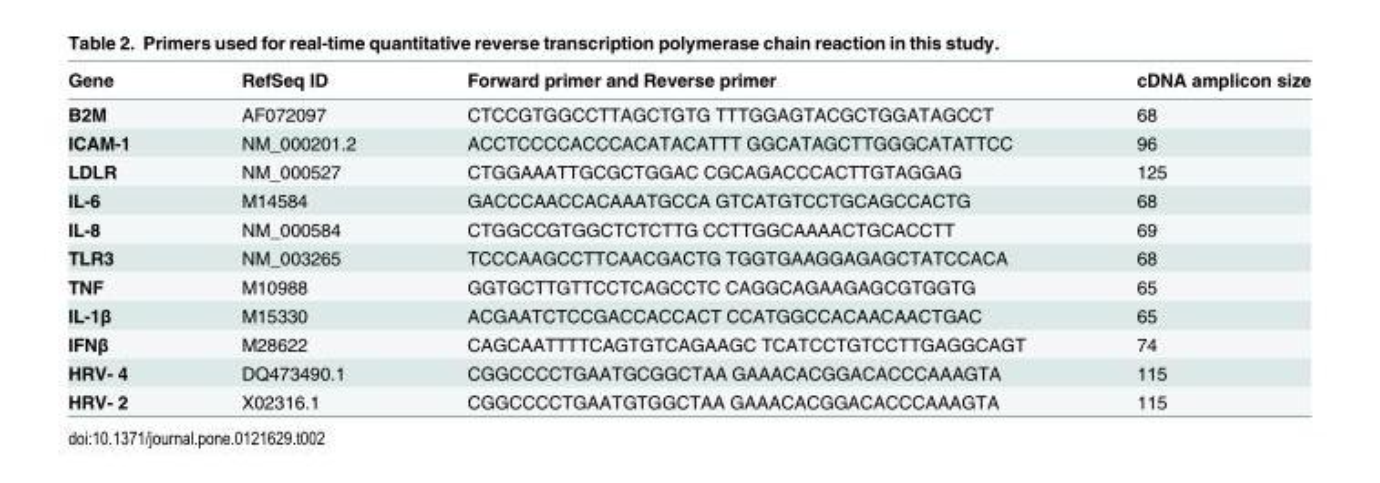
<table><thead><tr><td>Gene</td><td>RefSeq ID</td><td>Forward primer and Reverse primer</td><td>cDNA amplicon size</td></tr></thead><tbody><tr><td>B2M</td><td>AF072097</td><td>CTCCGTGGCCTTAGCTGTG TTTGGAGTACGCTGGATAGCCT</td><td>68</td></tr><tr><td>ICAM-1</td><td>NM_000201.2</td><td>ACCTCCCCACCCACATACATTT GGCATAGCTTGGGCATATTCC</td><td>96</td></tr><tr><td>LDLR</td><td>NM_000527</td><td>CTGGAAATTGCGCTGGAC CGCAGACCCACTTGTAGGAG</td><td>125</td></tr><tr><td>IL-6</td><td>M14584</td><td>GACCCAACCACAAATGCCA GTCATGTCCTGCAGCCACTG</td><td>68</td></tr><tr><td>IL-8</td><td>NM_000584</td><td>CTGGCCGTGGCTCTCTTG CCTTGGCAAAACTGCACCTT</td><td>69</td></tr><tr><td>TLR3</td><td>NM_003265</td><td>TCCCAAGCCTTCAACGACTG TGGTGAAGGAGAGCTATCCACA</td><td>68</td></tr><tr><td>TNF</td><td>M10988</td><td>GGTGCTTGTTCCTCAGCCTC CAGGCAGAAGAGCGTGGTG</td><td>65</td></tr><tr><td>IL-1β</td><td>M15330</td><td>ACGAATCTCCGACCACCACT CCATGGCCACAACAACTGAC</td><td>65</td></tr><tr><td>IFNβ</td><td>M28622</td><td>CAGCAATTTTCAGTGTCAGAAGC TCATCCTGTCCTTGAGGCAGT</td><td>74</td></tr><tr><td>HRV- 4</td><td>DQ473490.1</td><td>CGGCCCCTGAATGCGGCTAA GAAACACGGACACCCAAAGTA</td><td>115</td></tr><tr><td>HRV- 2</td><td>X02316.1</td><td>CGGCCCCTGAATGTGGCTAA GAAACACGGACACCCAAAGTA</td><td>115</td></tr></tbody></table>